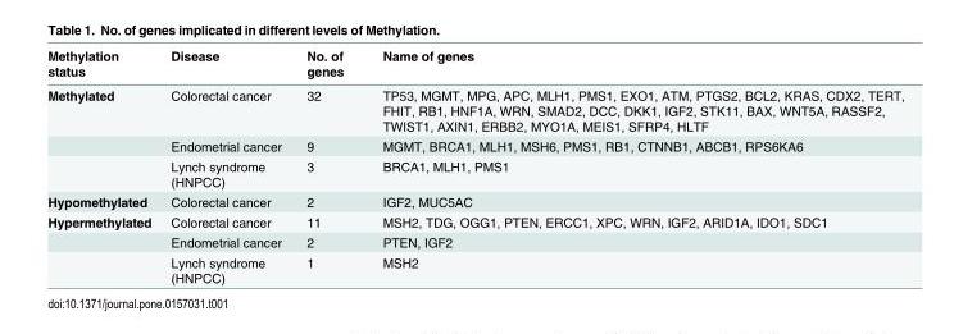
<table><thead><tr><td>Methylation status</td><td>Disease</td><td>No. of genes</td><td>Name of genes</td></tr></thead><tbody><tr><td rowspan="3">Methylated</td><td>Colorectal cancer</td><td>32</td><td>TP53, MGMT, MPG, APC, MLH1, PMS1, EXO1, ATM, PTGS2, BCL2, KRAS, CDX2, TERT, FHIT, RB1, HNF1A, WRN, SMAD2, DCC, DKK1, IGF2, STK11, BAX, WNT5A, RASSF2, TWIST1, AXIN1, ERBB2, MYO1A, MEIS1, SFRP4, HLTF</td></tr><tr><td>Endometrial cancer</td><td>9</td><td>MGMT, BRCA1, MLH1, MSH6, PMS1, RB1, CTNNB1, ABCB1, RPS6KA6</td></tr><tr><td>Lynch syndrome (HNPCC)</td><td>3</td><td>BRCA1, MLH1, PMS1</td></tr><tr><td>Hypomethylated</td><td>Colorectal cancer</td><td>2</td><td>IGF2, MUC5AC</td></tr><tr><td rowspan="3">Hypermethylated</td><td>Colorectal cancer</td><td>11</td><td>MSH2, TDG, OGG1, PTEN, ERCC1, XPC, WRN, IGF2, ARID1A, IDO1, SDC1</td></tr><tr><td>Endometrial cancer</td><td>2</td><td>PTEN, IGF2</td></tr><tr><td>Lynch syndrome (HNPCC)</td><td>1</td><td>MSH2</td></tr></tbody></table>